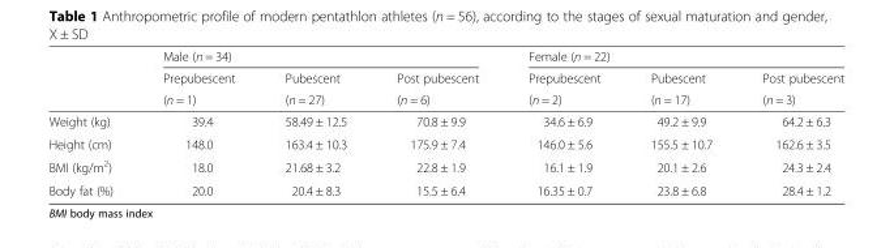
<table><thead><tr><td rowspan="3"></td><td colspan="3">Male (n = 34)</td><td colspan="3">Female (n = 22)</td></tr><tr><td rowspan="2">Prepubescent (n = 1)</td><td rowspan="2">Pubescent (n = 27)</td><td rowspan="2">Post pubescent (n = 6)</td><td rowspan="2">Prepubescent (n = 2)</td><td rowspan="2">Pubescent (n = 17)</td><td rowspan="2">Post pubescent (n = 3)</td></tr><tr></tr></thead><tbody><tr><td>Weight (kg)</td><td>39.4</td><td>58.49 ± 12.5</td><td>70.8 ± 9.9</td><td>34.6 ± 6.9</td><td>49.2 ± 9.9</td><td>64.2 ± 6.3</td></tr><tr><td>Height (cm)</td><td>148.0</td><td>163.4 ± 10.3</td><td>175.9 ± 7.4</td><td>146.0 ± 5.6</td><td>155.5 ± 10.7</td><td>162.6 ± 3.5</td></tr><tr><td>BMI (kg/m<sup>2</sup>)</td><td>18.0</td><td>21.68 ± 3.2</td><td>22.8 ± 1.9</td><td>16.1 ± 1.9</td><td>20.1 ± 2.6</td><td>24.3 ± 2.4</td></tr><tr><td>Body fat (%)</td><td>20.0</td><td>20.4 ± 8.3</td><td>15.5 ± 6.4</td><td>16.35 ± 0.7</td><td>23.8 ± 6.8</td><td>28.4 ± 1.2</td></tr></tbody></table>